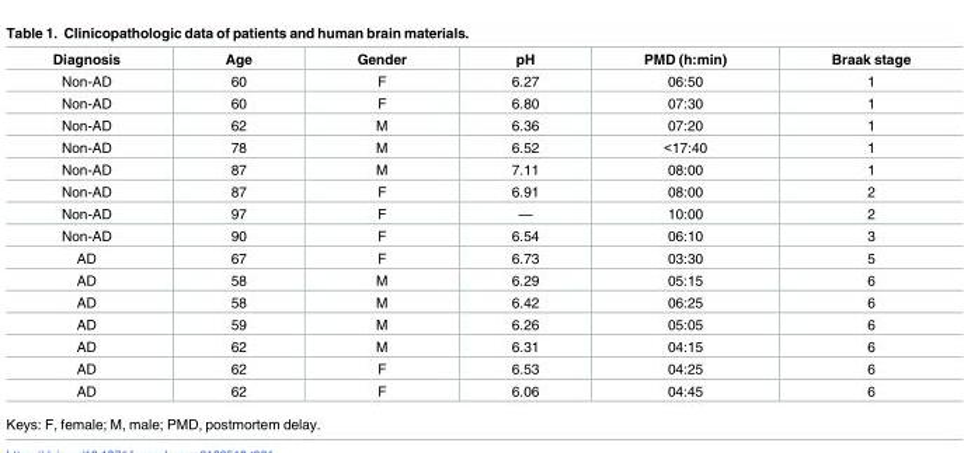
<table><thead><tr><td>Diagnosis</td><td>Age</td><td>Gender</td><td>pH</td><td>PMD (h:min)</td><td>Braak stage</td></tr></thead><tbody><tr><td>Non-AD</td><td>60</td><td>F</td><td>6.27</td><td>06:50</td><td>1</td></tr><tr><td>Non-AD</td><td>60</td><td>F</td><td>6.80</td><td>07:30</td><td>1</td></tr><tr><td>Non-AD</td><td>62</td><td>M</td><td>6.36</td><td>07:20</td><td>1</td></tr><tr><td>Non-AD</td><td>78</td><td>M</td><td>6.52</td><td>&lt;17:40</td><td>1</td></tr><tr><td>Non-AD</td><td>87</td><td>M</td><td>7.11</td><td>08:00</td><td>1</td></tr><tr><td>Non-AD</td><td>87</td><td>F</td><td>6.91</td><td>08:00</td><td>2</td></tr><tr><td>Non-AD</td><td>97</td><td>F</td><td>—</td><td>10:00</td><td>2</td></tr><tr><td>Non-AD</td><td>90</td><td>F</td><td>6.54</td><td>06:10</td><td>3</td></tr><tr><td>AD</td><td>67</td><td>F</td><td>6.73</td><td>03:30</td><td>5</td></tr><tr><td>AD</td><td>58</td><td>M</td><td>6.29</td><td>05:15</td><td>6</td></tr><tr><td>AD</td><td>58</td><td>M</td><td>6.42</td><td>06:25</td><td>6</td></tr><tr><td>AD</td><td>59</td><td>M</td><td>6.26</td><td>05:05</td><td>6</td></tr><tr><td>AD</td><td>62</td><td>M</td><td>6.31</td><td>04:15</td><td>6</td></tr><tr><td>AD</td><td>62</td><td>F</td><td>6.53</td><td>04:25</td><td>6</td></tr><tr><td>AD</td><td>62</td><td>F</td><td>6.06</td><td>04:45</td><td>6</td></tr></tbody></table>